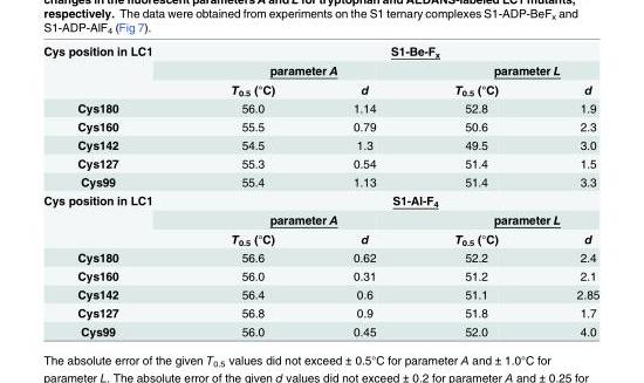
<table><tbody><tr><td rowspan="3">Cys position in LC1</td><td colspan="4">S1-Be-F<sub>x</sub></td></tr><tr><td colspan="2">parameter A</td><td colspan="2">parameter L</td></tr><tr><td>T<sub>0.5</sub> (°C)</td><td>d</td><td>T<sub>0.5</sub> (°C)</td><td>d</td></tr><tr><td>Cys180</td><td>56.0</td><td>1.14</td><td>52.8</td><td>1.9</td></tr><tr><td>Cys160</td><td>55.5</td><td>0.79</td><td>50.6</td><td>2.3</td></tr><tr><td>Cys142</td><td>54.5</td><td>1.3</td><td>49.5</td><td>3.0</td></tr><tr><td>Cys127</td><td>55.3</td><td>0.54</td><td>51.4</td><td>1.5</td></tr><tr><td>Cys99</td><td>55.4</td><td>1.13</td><td>51.4</td><td>3.3</td></tr><tr><td rowspan="3">Cys position in LC1</td><td colspan="4">S1-Al-F<sub>4</sub></td></tr><tr><td colspan="2">parameter A</td><td colspan="2">parameter L</td></tr><tr><td>T<sub>0.5</sub> (°C)</td><td>d</td><td>T<sub>0.5</sub> (°C)</td><td>d</td></tr><tr><td>Cys180</td><td>56.6</td><td>0.62</td><td>52.2</td><td>2.4</td></tr><tr><td>Cys160</td><td>56.0</td><td>0.31</td><td>51.2</td><td>2.1</td></tr><tr><td>Cys142</td><td>56.4</td><td>0.6</td><td>51.1</td><td>2.85</td></tr><tr><td>Cys127</td><td>56.8</td><td>0.9</td><td>51.8</td><td>1.7</td></tr><tr><td>Cys99</td><td>56.0</td><td>0.45</td><td>52.0</td><td>4.0</td></tr></tbody></table>